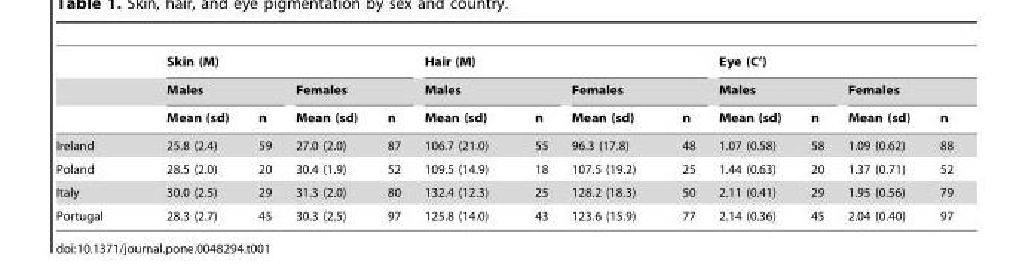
<table><thead><tr><td rowspan="3"></td><td colspan="4">Skin (M)</td><td colspan="4">Hair (M)</td><td colspan="4">Eye (C’)</td></tr><tr><td colspan="2">Males</td><td colspan="2">Females</td><td colspan="2">Males</td><td colspan="2">Females</td><td colspan="2">Males</td><td colspan="2">Females</td></tr><tr><td>Mean (sd)</td><td>n</td><td>Mean (sd)</td><td>n</td><td>Mean (sd)</td><td>n</td><td>Mean (sd)</td><td>n</td><td>Mean (sd)</td><td>n</td><td>Mean (sd)</td><td>n</td></tr></thead><tbody><tr><td>Ireland</td><td>25.8 (2.4)</td><td>59</td><td>27.0 (2.0)</td><td>87</td><td>106.7 (21.0)</td><td>55</td><td>96.3 (17.8)</td><td>48</td><td>1.07 (0.58)</td><td>58</td><td>1.09 (0.62)</td><td>88</td></tr><tr><td>Poland</td><td>28.5 (2.0)</td><td>20</td><td>30.4 (1.9)</td><td>52</td><td>109.5 (14.9)</td><td>18</td><td>107.5 (19.2)</td><td>25</td><td>1.44 (0.63)</td><td>20</td><td>1.37 (0.71)</td><td>52</td></tr><tr><td>Italy</td><td>30.0 (2.5)</td><td>29</td><td>31.3 (2.0)</td><td>80</td><td>132.4 (12.3)</td><td>25</td><td>128.2 (18.3)</td><td>50</td><td>2.11 (0.41)</td><td>29</td><td>1.95 (0.56)</td><td>79</td></tr><tr><td>Portugal</td><td>28.3 (2.7)</td><td>45</td><td>30.3 (2.5)</td><td>97</td><td>125.8 (14.0)</td><td>43</td><td>123.6 (15.9)</td><td>77</td><td>2.14 (0.36)</td><td>45</td><td>2.04 (0.40)</td><td>97</td></tr></tbody></table>